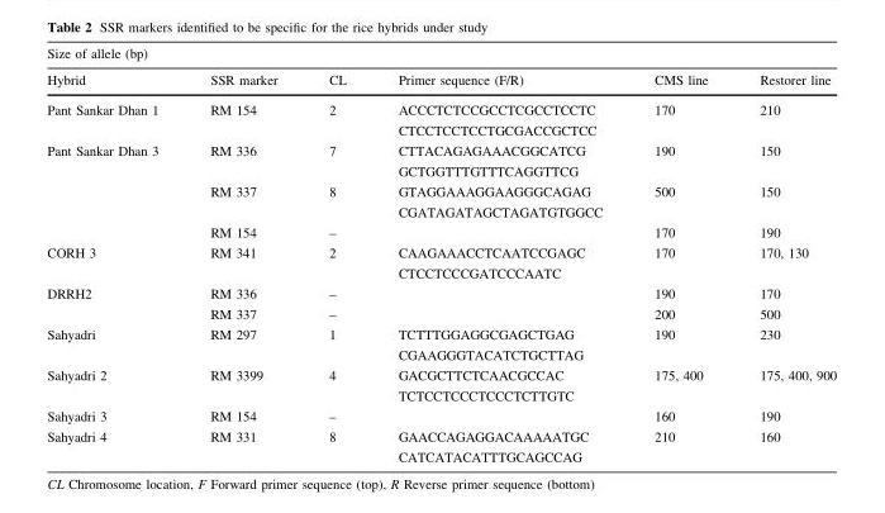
<table><thead><tr><td colspan="6">Size of allele (bp)</td></tr><tr><td>Hybrid</td><td>SSR marker</td><td>CL</td><td>Primer sequence (F/R)</td><td>CMS line</td><td>Restorer line</td></tr></thead><tbody><tr><td>Pant Sankar Dhan 1</td><td>RM 154</td><td>2</td><td>ACCCTCTCCGCCTCGCCTCCTC CTCCTCCTCCTGCGACCGCTCC</td><td>170</td><td>210</td></tr><tr><td rowspan="3">Pant Sankar Dhan 3</td><td>RM 336</td><td>7</td><td>CTTACAGAGAAACGGCATCG GCTGGTTTGTTTCAGGTTCG</td><td>190</td><td>150</td></tr><tr><td>RM 337</td><td>8</td><td>GTAGGAAAGGAAGGGCAGAG CGATAGATAGCTAGATGTGGCC</td><td>500</td><td>150</td></tr><tr><td>RM 154</td><td>–</td><td></td><td>170</td><td>190</td></tr><tr><td>CORH 3</td><td>RM 341</td><td>2</td><td>CAAGAAACCTCAATCCGAGC CTCCTCCCGATCCCAATC</td><td>170</td><td>170, 130</td></tr><tr><td rowspan="2">DRRH2</td><td>RM 336</td><td>–</td><td></td><td>190</td><td>170</td></tr><tr><td>RM 337</td><td>–</td><td></td><td>200</td><td>500</td></tr><tr><td>Sahyadri</td><td>RM 297</td><td>1</td><td>TCTTTGGAGGCGAGCTGAG CGAAGGGTACATCTGCTTAG</td><td>190</td><td>230</td></tr><tr><td>Sahyadri 2</td><td>RM 3399</td><td>4</td><td>GACGCTTCTCAACGCCAC TCTCCTCCCTCCCTCTTGTC</td><td>175, 400</td><td>175, 400, 900</td></tr><tr><td>Sahyadri 3</td><td>RM 154</td><td>–</td><td></td><td>160</td><td>190</td></tr><tr><td>Sahyadri 4</td><td>RM 331</td><td>8</td><td>GAACCAGAGGACAAAAATGC CATCATACATTTGCAGCCAG</td><td>210</td><td>160</td></tr></tbody></table>